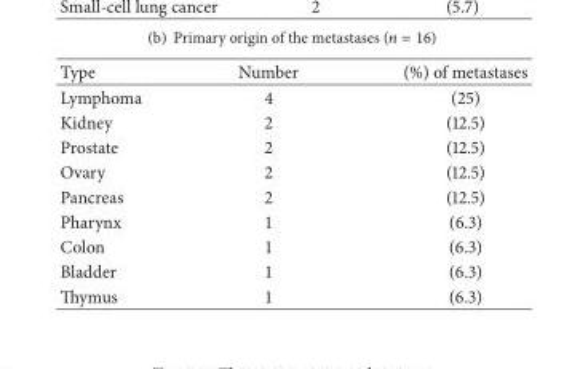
<table><thead><tr><td>Type</td><td>Number</td><td>(%) of metastases</td></tr></thead><tbody><tr><td>Lymphoma</td><td>4</td><td>(25)</td></tr><tr><td>Kidney</td><td>2</td><td>(12.5)</td></tr><tr><td>Prostate</td><td>2</td><td>(12.5)</td></tr><tr><td>Ovary</td><td>2</td><td>(12.5)</td></tr><tr><td>Pancreas</td><td>2</td><td>(12.5)</td></tr><tr><td>Pharynx</td><td>1</td><td>(6.3)</td></tr><tr><td>Colon</td><td>1</td><td>(6.3)</td></tr><tr><td>Bladder</td><td>1</td><td>(6.3)</td></tr><tr><td>Thymus</td><td>1</td><td>(6.3)</td></tr></tbody></table>